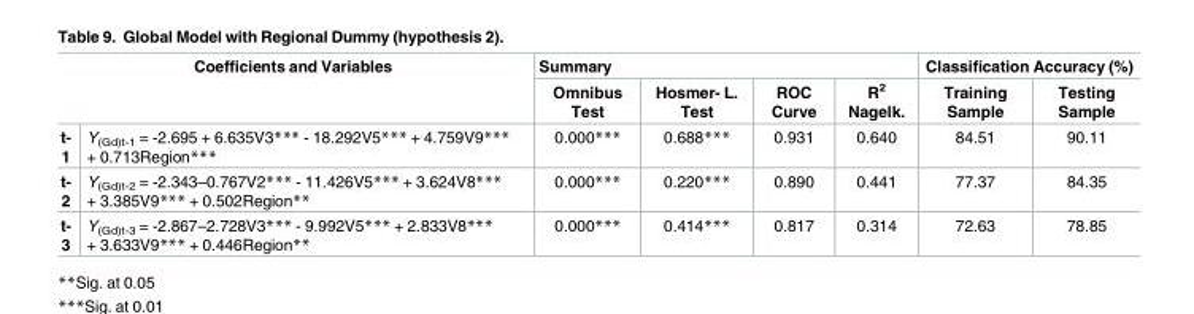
<table><thead><tr><td rowspan="2" colspan="2">Coefficients and Variables</td><td colspan="4">Summary</td><td colspan="2">Classification Accuracy (%)</td></tr><tr><td rowspan="2">Omnibus Test 0.000***</td><td rowspan="2">Hosmer- L. Test 0.688***</td><td rowspan="2">ROC Curve 0.931</td><td rowspan="2">R<sup>2</sup> Nagelk. 0.640</td><td rowspan="2">Training Sample 84.51</td><td rowspan="2">Testing Sample 90.11</td></tr><tr><td>t- 1</td><td>Y<sub>(Gd)t-1</sub> = -2.695 + 6.635V3*** - 18.292V5*** + 4.759V9*** + 0.713Region***</td></tr></thead><tbody><tr><td>t- 2</td><td>Y<sub>(Gd)t-2</sub> = -2.343–0.767V2*** - 11.426V5*** + 3.624V8*** + 3.385V9*** + 0.502Region**</td><td>0.000***</td><td>0.220***</td><td>0.890</td><td>0.441</td><td>77.37</td><td>84.35</td></tr><tr><td>t- 3</td><td>Y<sub>(Gd)t-3</sub> = -2.867–2.728V3*** - 9.992V5*** + 2.833V8*** + 3.633V9*** + 0.446Region**</td><td>0.000***</td><td>0.414***</td><td>0.817</td><td>0.314</td><td>72.63</td><td>78.85</td></tr></tbody></table>